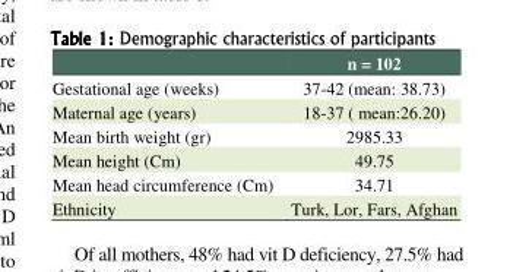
<table><thead><tr><td></td><td>n = 102</td></tr></thead><tbody><tr><td>Gestational age (weeks)</td><td>37-42 (mean: 38.73)</td></tr><tr><td>Maternal age (years)</td><td>18-37 ( mean:26.20)</td></tr><tr><td>Mean birth weight (gr)</td><td>2985.33</td></tr><tr><td>Mean height (Cm)</td><td>49.75</td></tr><tr><td>Mean head circumference (Cm)</td><td>34.71</td></tr><tr><td>Ethnicity</td><td>Turk, Lor, Fars, Afghan</td></tr></tbody></table>